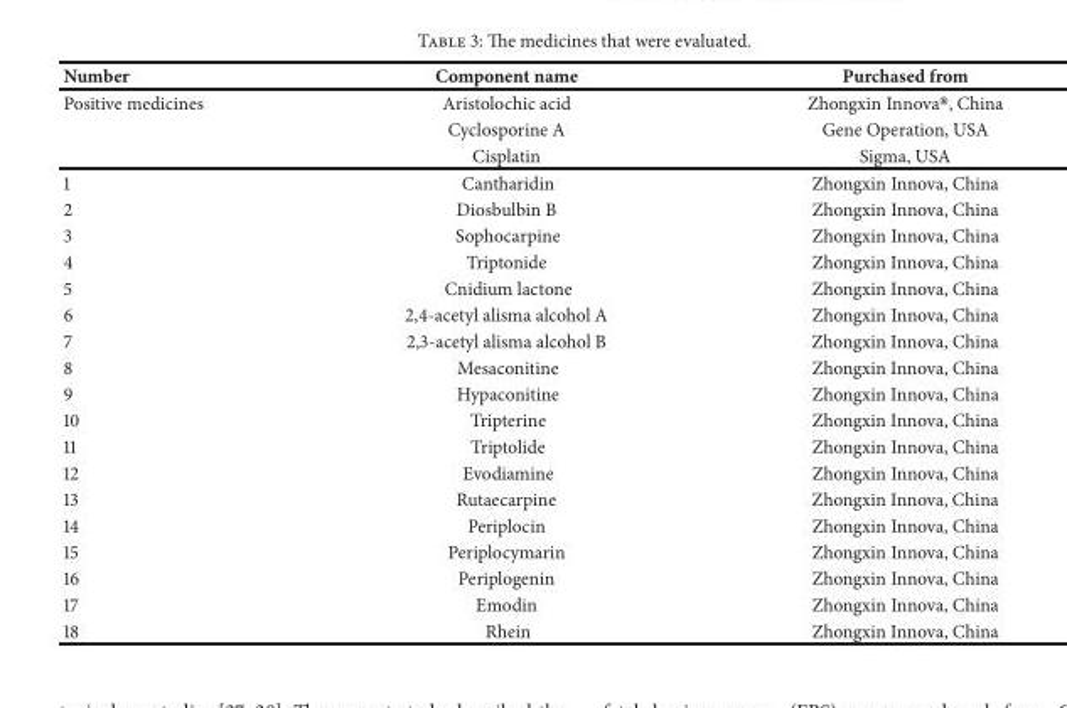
<table><thead><tr><td>Number</td><td>Component name</td><td>Purchased from</td></tr></thead><tbody><tr><td rowspan="3">Positive medicines</td><td>Aristolochic acid</td><td>Zhongxin Innova®, China</td></tr><tr><td>Cyclosporine A</td><td>Gene Operation, USA</td></tr><tr><td>Cisplatin</td><td>Sigma, USA</td></tr><tr><td>1</td><td>Cantharidin</td><td>Zhongxin Innova, China</td></tr><tr><td>2</td><td>Diosbulbin B</td><td>Zhongxin Innova, China</td></tr><tr><td>3</td><td>Sophocarpine</td><td>Zhongxin Innova, China</td></tr><tr><td>4</td><td>Triptonide</td><td>Zhongxin Innova, China</td></tr><tr><td>5</td><td>Cnidium lactone</td><td>Zhongxin Innova, China</td></tr><tr><td>6</td><td>2,4-acetyl alisma alcohol A</td><td>Zhongxin Innova, China</td></tr><tr><td>7</td><td>2,3-acetyl alisma alcohol B</td><td>Zhongxin Innova, China</td></tr><tr><td>8</td><td>Mesaconitine</td><td>Zhongxin Innova, China</td></tr><tr><td>9</td><td>Hypaconitine</td><td>Zhongxin Innova, China</td></tr><tr><td>10</td><td>Tripterine</td><td>Zhongxin Innova, China</td></tr><tr><td>11</td><td>Triptolide</td><td>Zhongxin Innova, China</td></tr><tr><td>12</td><td>Evodiamine</td><td>Zhongxin Innova, China</td></tr><tr><td>13</td><td>Rutaecarpine</td><td>Zhongxin Innova, China</td></tr><tr><td>14</td><td>Periplocin</td><td>Zhongxin Innova, China</td></tr><tr><td>15</td><td>Periplocymarin</td><td>Zhongxin Innova, China</td></tr><tr><td>16</td><td>Periplogenin</td><td>Zhongxin Innova, China</td></tr><tr><td>17</td><td>Emodin</td><td>Zhongxin Innova, China</td></tr><tr><td>18</td><td>Rhein</td><td>Zhongxin Innova, China</td></tr></tbody></table>